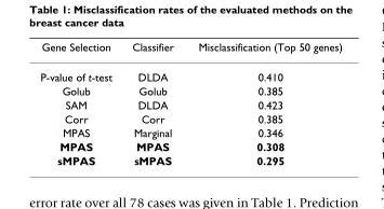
<table><thead><tr><td>Gene Selection</td><td>Classifier</td><td>Misclassification (Top 50 genes)</td></tr></thead><tbody><tr><td>P-value of t-test</td><td>DLDA</td><td>0.410</td></tr><tr><td>Golub</td><td>Golub</td><td>0.385</td></tr><tr><td>SAM</td><td>DLDA</td><td>0.423</td></tr><tr><td>Corr</td><td>Corr</td><td>0.385</td></tr><tr><td>MPAS</td><td>Marginal</td><td>0.346</td></tr><tr><td>MPAS</td><td>MPAS</td><td>0.308</td></tr><tr><td>sMPAS</td><td>sMPAS</td><td>0.295</td></tr></tbody></table>